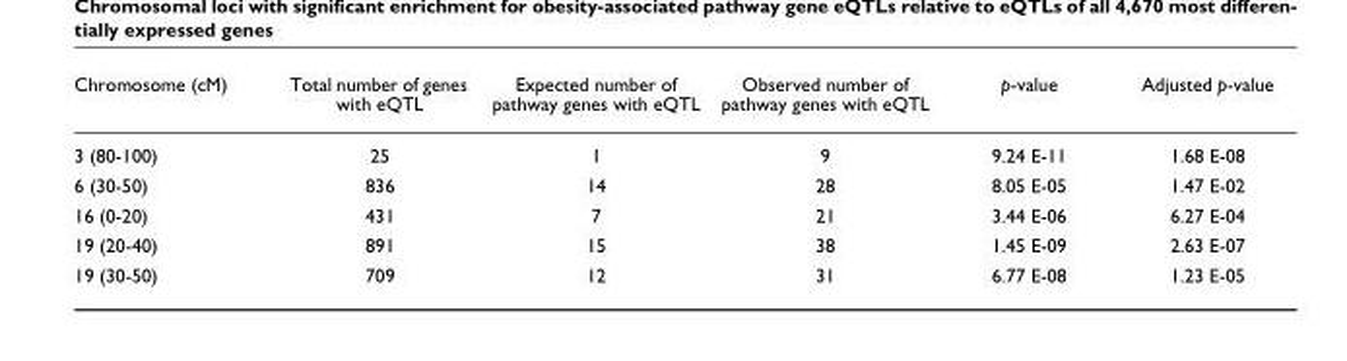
<table><thead><tr><td>Chromosome (cM)</td><td>Total number of genes with eQTL</td><td>Expected number of pathway genes with eQTL</td><td>Observed number of pathway genes with eQTL</td><td>p-value</td><td>Adjusted p-value</td></tr></thead><tbody><tr><td>3 (80-100)</td><td>25</td><td>1</td><td>9</td><td>9.24 E-11</td><td>1.68 E-08</td></tr><tr><td>6 (30-50)</td><td>836</td><td>14</td><td>28</td><td>8.05 E-05</td><td>1.47 E-02</td></tr><tr><td>16 (0-20)</td><td>431</td><td>7</td><td>21</td><td>3.44 E-06</td><td>6.27 E-04</td></tr><tr><td>19 (20-40)</td><td>891</td><td>15</td><td>38</td><td>1.45 E-09</td><td>2.63 E-07</td></tr><tr><td>19 (30-50)</td><td>709</td><td>12</td><td>31</td><td>6.77 E-08</td><td>1.23 E-05</td></tr></tbody></table>